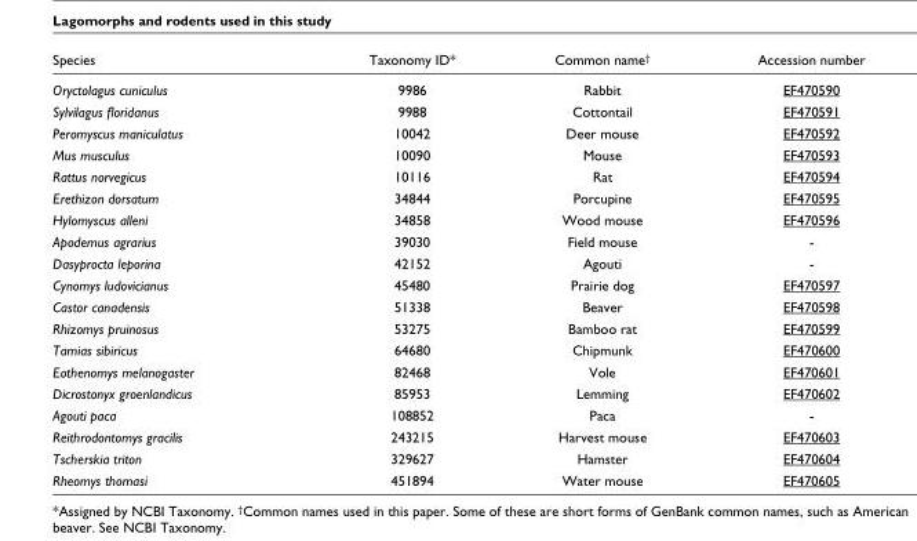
<table><thead><tr><td>Species</td><td>Taxonomy ID*</td><td>Common name<sup>†</sup></td><td>Accession number</td></tr></thead><tbody><tr><td>Oryctolagus cuniculus</td><td>9986</td><td>Rabbit</td><td>EF470590</td></tr><tr><td>Sylvilagus floridanus</td><td>9988</td><td>Cottontail</td><td>EF470591</td></tr><tr><td>Peromyscus maniculatus</td><td>10042</td><td>Deer mouse</td><td>EF470592</td></tr><tr><td>Mus musculus</td><td>10090</td><td>Mouse</td><td>EF470593</td></tr><tr><td>Rattus norvegicus</td><td>10116</td><td>Rat</td><td>EF470594</td></tr><tr><td>Erethizon dorsatum</td><td>34844</td><td>Porcupine</td><td>EF470595</td></tr><tr><td>Hylomyscus alleni</td><td>34858</td><td>Wood mouse</td><td>EF470596</td></tr><tr><td>Apodemus agrarius</td><td>39030</td><td>Field mouse</td><td>-</td></tr><tr><td>Dasyprocta leporina</td><td>42152</td><td>Agouti</td><td>-</td></tr><tr><td>Cynomys ludovicianus</td><td>45480</td><td>Prairie dog</td><td>EF470597</td></tr><tr><td>Castor canadensis</td><td>51338</td><td>Beaver</td><td>EF470598</td></tr><tr><td>Rhizomys pruinosus</td><td>53275</td><td>Bamboo rat</td><td>EF470599</td></tr><tr><td>Tamias sibiricus</td><td>64680</td><td>Chipmunk</td><td>EF470600</td></tr><tr><td>Eothenomys melanogaster</td><td>82468</td><td>Vole</td><td>EF470601</td></tr><tr><td>Dicrostonyx groenlandicus</td><td>85953</td><td>Lemming</td><td>EF470602</td></tr><tr><td>Agouti paca</td><td>108852</td><td>Paca</td><td>-</td></tr><tr><td>Reithrodontomys gracilis</td><td>243215</td><td>Harvest mouse</td><td>EF470603</td></tr><tr><td>Tscherskia triton</td><td>329627</td><td>Hamster</td><td>EF470604</td></tr><tr><td>Rheomys thomasi</td><td>451894</td><td>Water mouse</td><td>EF470605</td></tr></tbody></table>